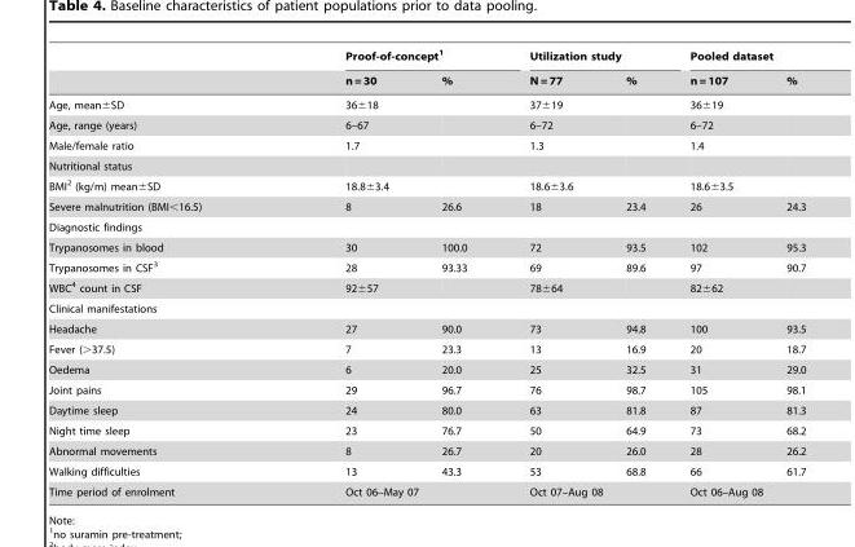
<table><thead><tr><td rowspan="2"></td><td colspan="2">Proof-of-concept<sup>1</sup></td><td colspan="2">Utilization study</td><td colspan="2">Pooled dataset</td></tr><tr><td>n = 30</td><td>%</td><td>N = 77</td><td>%</td><td>n = 107</td><td>%</td></tr></thead><tbody><tr><td>Age, mean±SD</td><td>36±18</td><td></td><td>37±19</td><td></td><td>36±19</td><td></td></tr><tr><td>Age, range (years)</td><td>6–67</td><td></td><td>6–72</td><td></td><td>6–72</td><td></td></tr><tr><td>Male/female ratio</td><td>1.7</td><td></td><td>1.3</td><td></td><td>1.4</td><td></td></tr><tr><td colspan="7">Nutritional status</td></tr><tr><td>BMI<sup>2</sup> (kg/m) mean±SD</td><td>18.8±3.4</td><td></td><td>18.6±3.6</td><td></td><td>18.6±3.5</td><td></td></tr><tr><td>Severe malnutrition (BMI&lt;16.5)</td><td>8</td><td>26.6</td><td>18</td><td>23.4</td><td>26</td><td>24.3</td></tr><tr><td colspan="7">Diagnostic findings</td></tr><tr><td>Trypanosomes in blood</td><td>30</td><td>100.0</td><td>72</td><td>93.5</td><td>102</td><td>95.3</td></tr><tr><td>Trypanosomes in CSF<sup>3</sup></td><td>28</td><td>93.33</td><td>69</td><td>89.6</td><td>97</td><td>90.7</td></tr><tr><td>WBC<sup>4</sup> count in CSF</td><td>92±57</td><td></td><td>78±64</td><td></td><td>82±62</td><td></td></tr><tr><td colspan="7">Clinical manifestations</td></tr><tr><td>Headache</td><td>27</td><td>90.0</td><td>73</td><td>94.8</td><td>100</td><td>93.5</td></tr><tr><td>Fever (&gt;37.5)</td><td>7</td><td>23.3</td><td>13</td><td>16.9</td><td>20</td><td>18.7</td></tr><tr><td>Oedema</td><td>6</td><td>20.0</td><td>25</td><td>32.5</td><td>31</td><td>29.0</td></tr><tr><td>Joint pains</td><td>29</td><td>96.7</td><td>76</td><td>98.7</td><td>105</td><td>98.1</td></tr><tr><td>Daytime sleep</td><td>24</td><td>80.0</td><td>63</td><td>81.8</td><td>87</td><td>81.3</td></tr><tr><td>Night time sleep</td><td>23</td><td>76.7</td><td>50</td><td>64.9</td><td>73</td><td>68.2</td></tr><tr><td>Abnormal movements</td><td>8</td><td>26.7</td><td>20</td><td>26.0</td><td>28</td><td>26.2</td></tr><tr><td>Walking difficulties</td><td>13</td><td>43.3</td><td>53</td><td>68.8</td><td>66</td><td>61.7</td></tr><tr><td>Time period of enrolment</td><td colspan="2">Oct 06–May 07</td><td colspan="2">Oct 07–Aug 08</td><td colspan="2">Oct 06–Aug 08</td></tr></tbody></table>